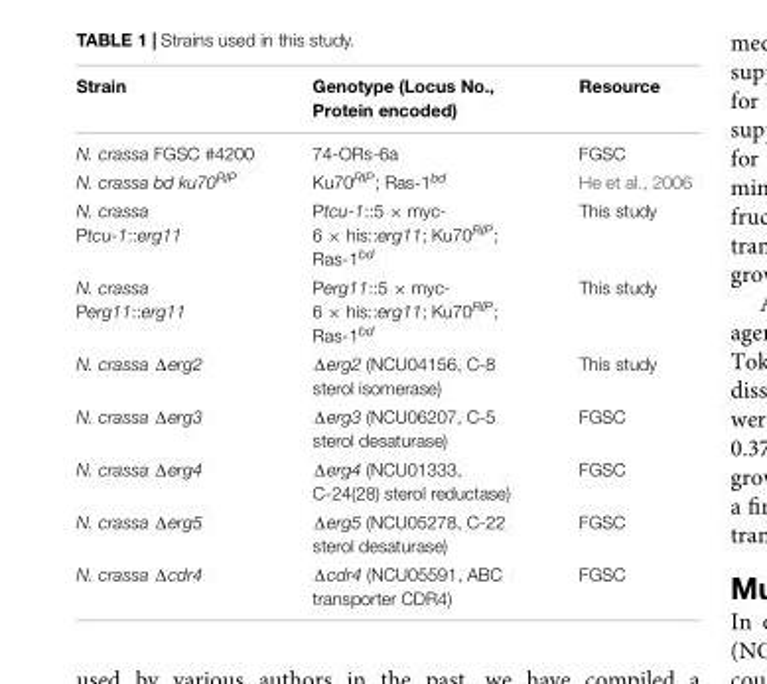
<table><thead><tr><td>Strain</td><td>Genotype (Locus No., Protein encoded)</td><td>Resource</td></tr></thead><tbody><tr><td>N. crassa FGSC #4200</td><td>74-ORs-6a</td><td>FGSC</td></tr><tr><td>N. crassa bd ku70<sup>RIP</sup></td><td>Ku70<sup>RIP</sup>; Ras-1<sup>bd</sup></td><td>He et al., 2006</td></tr><tr><td>N. crassa Ptcu-1::erg11</td><td>Ptcu-1::5 × myc- 6 × his::erg11; Ku70<sup>RIP</sup>; Ras-1<sup>bd</sup></td><td>This study</td></tr><tr><td>N. crassa Perg11::erg11</td><td>Perg11::5 × myc- 6 × his::erg11; Ku70<sup>RIP</sup>; Ras-1<sup>bd</sup></td><td>This study</td></tr><tr><td>N. crassa Δerg2</td><td>Δerg2 (NCU04156, C-8 sterol isomerase)</td><td>This study</td></tr><tr><td>N. crassa Δerg3</td><td>Δerg3 (NCU06207, C-5 sterol desaturase)</td><td>FGSC</td></tr><tr><td>N. crassa Δerg4</td><td>Δerg4 (NCU01333, C-24(28) sterol reductase)</td><td>FGSC</td></tr><tr><td>N. crassa Δerg5</td><td>Δerg5 (NCU05278, C-22 sterol desaturase)</td><td>FGSC</td></tr><tr><td>N. crassa Δcdr4</td><td>Δcdr4 (NCU05591, ABC transporter CDR4)</td><td>FGSC</td></tr></tbody></table>